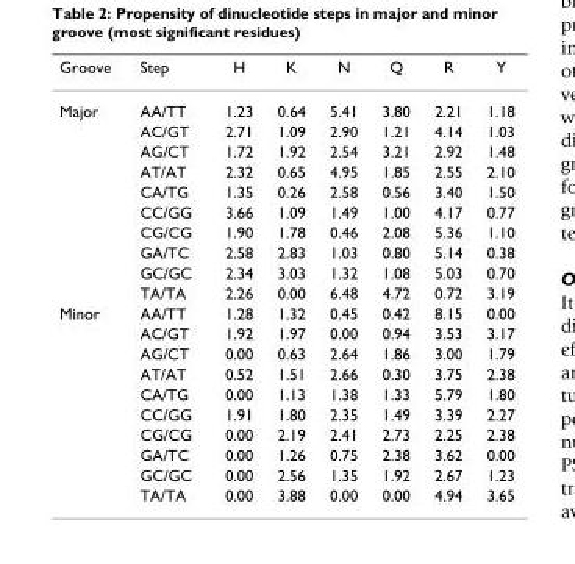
<table><thead><tr><td>Groove</td><td>Step</td><td>H</td><td>K</td><td>N</td><td>Q</td><td>R</td><td>Y</td></tr></thead><tbody><tr><td rowspan="10">Major</td><td>AA/TT</td><td>1.23</td><td>0.64</td><td>5.41</td><td>3.80</td><td>2.21</td><td>1.18</td></tr><tr><td>AC/GT</td><td>2.71</td><td>1.09</td><td>2.90</td><td>1.21</td><td>4.14</td><td>1.03</td></tr><tr><td>AG/CT</td><td>1.72</td><td>1.92</td><td>2.54</td><td>3.21</td><td>2.92</td><td>1.48</td></tr><tr><td>AT/AT</td><td>2.32</td><td>0.65</td><td>4.95</td><td>1.85</td><td>2.55</td><td>2.10</td></tr><tr><td>CA/TG</td><td>1.35</td><td>0.26</td><td>2.58</td><td>0.56</td><td>3.40</td><td>1.50</td></tr><tr><td>CC/GG</td><td>3.66</td><td>1.09</td><td>1.49</td><td>1.00</td><td>4.17</td><td>0.77</td></tr><tr><td>CG/CG</td><td>1.90</td><td>1.78</td><td>0.46</td><td>2.08</td><td>5.36</td><td>1.10</td></tr><tr><td>GA/TC</td><td>2.58</td><td>2.83</td><td>1.03</td><td>0.80</td><td>5.14</td><td>0.38</td></tr><tr><td>GC/GC</td><td>2.34</td><td>3.03</td><td>1.32</td><td>1.08</td><td>5.03</td><td>0.70</td></tr><tr><td>TA/TA</td><td>2.26</td><td>0.00</td><td>6.48</td><td>4.72</td><td>0.72</td><td>3.19</td></tr><tr><td rowspan="10">Minor</td><td>AA/TT</td><td>1.28</td><td>1.32</td><td>0.45</td><td>0.42</td><td>8.15</td><td>0.00</td></tr><tr><td>AC/GT</td><td>1.92</td><td>1.97</td><td>0.00</td><td>0.94</td><td>3.53</td><td>3.17</td></tr><tr><td>AG/CT</td><td>0.00</td><td>0.63</td><td>2.64</td><td>1.86</td><td>3.00</td><td>1.79</td></tr><tr><td>AT/AT</td><td>0.52</td><td>1.51</td><td>2.66</td><td>0.30</td><td>3.75</td><td>2.38</td></tr><tr><td>CA/TG</td><td>0.00</td><td>1.13</td><td>1.38</td><td>1.33</td><td>5.79</td><td>1.80</td></tr><tr><td>CC/GG</td><td>1.91</td><td>1.80</td><td>2.35</td><td>1.49</td><td>3.39</td><td>2.27</td></tr><tr><td>CG/CG</td><td>0.00</td><td>2.19</td><td>2.41</td><td>2.73</td><td>2.25</td><td>2.38</td></tr><tr><td>GA/TC</td><td>0.00</td><td>1.26</td><td>0.75</td><td>2.38</td><td>3.62</td><td>0.00</td></tr><tr><td>GC/GC</td><td>0.00</td><td>2.56</td><td>1.35</td><td>1.92</td><td>2.67</td><td>1.23</td></tr><tr><td>TA/TA</td><td>0.00</td><td>3.88</td><td>0.00</td><td>0.00</td><td>4.94</td><td>3.65</td></tr></tbody></table>